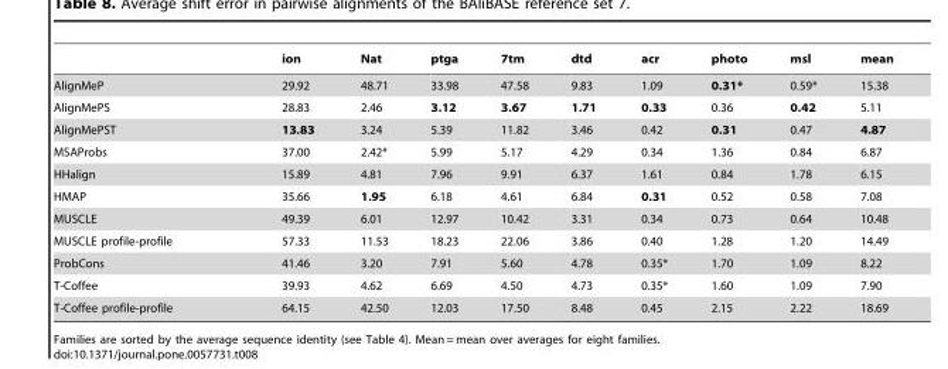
<table><thead><tr><td></td><td>ion</td><td>Nat</td><td>ptga</td><td>7tm</td><td>dtd</td><td>acr</td><td>photo</td><td>msl</td><td>mean</td></tr></thead><tbody><tr><td>AlignMeP</td><td>29.92</td><td>48.71</td><td>33.98</td><td>47.58</td><td>9.83</td><td>1.09</td><td>0.31*</td><td>0.59*</td><td>15.38</td></tr><tr><td>AlignMePS</td><td>28.83</td><td>2.46</td><td>3.12</td><td>3.67</td><td>1.71</td><td>0.33</td><td>0.36</td><td>0.42</td><td>5.11</td></tr><tr><td>AlignMePST</td><td>13.83</td><td>3.24</td><td>5.39</td><td>11.82</td><td>3.46</td><td>0.42</td><td>0.31</td><td>0.47</td><td>4.87</td></tr><tr><td>MSAProbs</td><td>37.00</td><td>2.42*</td><td>5.99</td><td>5.17</td><td>4.29</td><td>0.34</td><td>1.36</td><td>0.84</td><td>6.87</td></tr><tr><td>HHalign</td><td>15.89</td><td>4.81</td><td>7.96</td><td>9.91</td><td>6.37</td><td>1.61</td><td>0.84</td><td>1.78</td><td>6.15</td></tr><tr><td>HMAP</td><td>35.66</td><td>1.95</td><td>6.18</td><td>4.61</td><td>6.84</td><td>0.31</td><td>0.52</td><td>0.58</td><td>7.08</td></tr><tr><td>MUSCLE</td><td>49.39</td><td>6.01</td><td>12.97</td><td>10.42</td><td>3.31</td><td>0.34</td><td>0.73</td><td>0.64</td><td>10.48</td></tr><tr><td>MUSCLE profile-profile</td><td>57.33</td><td>11.53</td><td>18.23</td><td>22.06</td><td>3.86</td><td>0.40</td><td>1.28</td><td>1.20</td><td>14.49</td></tr><tr><td>ProbCons</td><td>41.46</td><td>3.20</td><td>7.91</td><td>5.60</td><td>4.78</td><td>0.35*</td><td>1.70</td><td>1.09</td><td>8.22</td></tr><tr><td>T-Coffee</td><td>39.93</td><td>4.62</td><td>6.69</td><td>4.50</td><td>4.73</td><td>0.35*</td><td>1.60</td><td>1.09</td><td>7.90</td></tr><tr><td>T-Coffee profile-profile</td><td>64.15</td><td>42.50</td><td>12.03</td><td>17.50</td><td>8.48</td><td>0.45</td><td>2.15</td><td>2.22</td><td>18.69</td></tr></tbody></table>